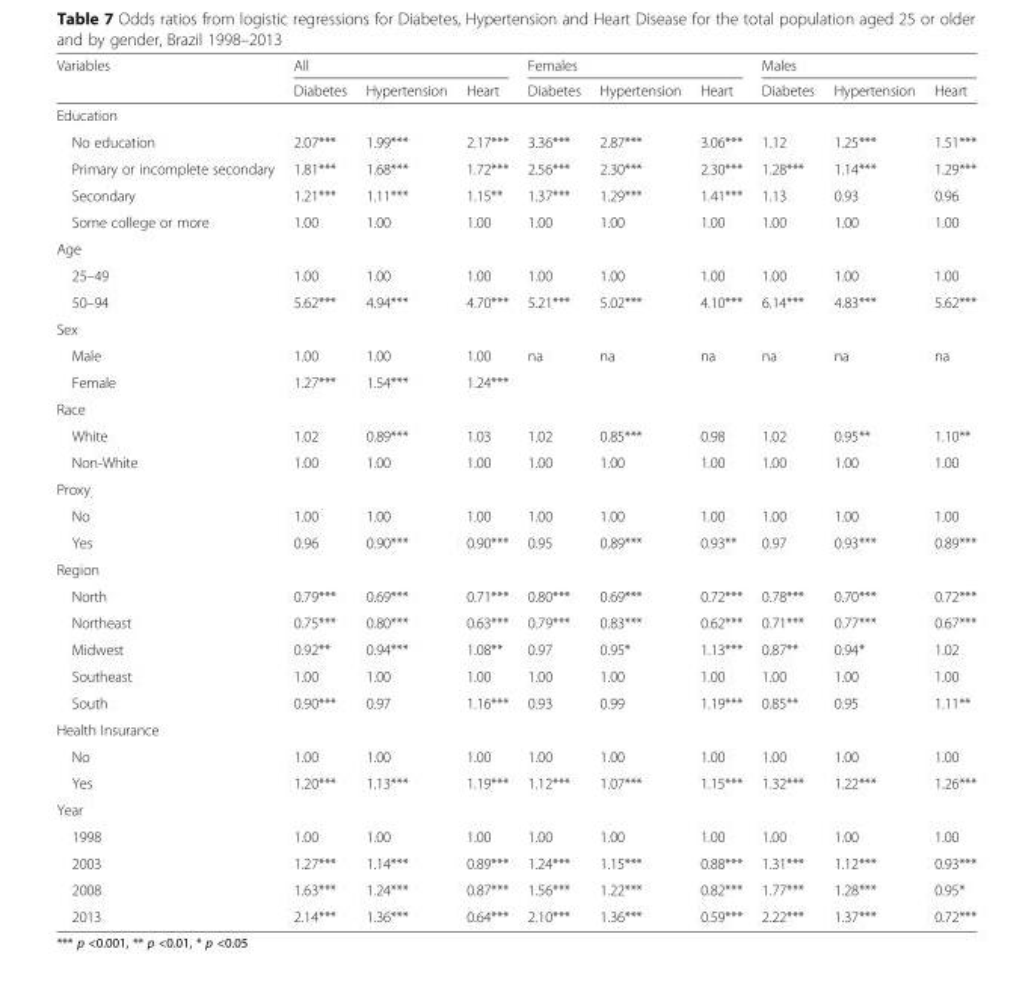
<table><thead><tr><td rowspan="2">Variables</td><td colspan="3">All</td><td colspan="3">Females</td><td colspan="3">Males</td></tr><tr><td>Diabetes</td><td>Hypertension</td><td>Heart</td><td>Diabetes</td><td>Hypertension</td><td>Heart</td><td>Diabetes</td><td>Hypertension</td><td>Heart</td></tr></thead><tbody><tr><td colspan="10">Education</td></tr><tr><td>No education</td><td>2.07***</td><td>1.99***</td><td>2.17***</td><td>3.36***</td><td>2.87***</td><td>3.06***</td><td>1.12</td><td>1.25***</td><td>1.51***</td></tr><tr><td>Primary or incomplete secondary</td><td>1.81***</td><td>1.68***</td><td>1.72***</td><td>2.56***</td><td>2.30***</td><td>2.30***</td><td>1.28***</td><td>1.14***</td><td>1.29***</td></tr><tr><td>Secondary</td><td>1.21***</td><td>1.11***</td><td>1.15**</td><td>1.37***</td><td>1.29***</td><td>1.41***</td><td>1.13</td><td>0.93</td><td>0.96</td></tr><tr><td>Some college or more</td><td>1.00</td><td>1.00</td><td>1.00</td><td>1.00</td><td>1.00</td><td>1.00</td><td>1.00</td><td>1.00</td><td>1.00</td></tr><tr><td colspan="10">Age</td></tr><tr><td>25–49</td><td>1.00</td><td>1.00</td><td>1.00</td><td>1.00</td><td>1.00</td><td>1.00</td><td>1.00</td><td>1.00</td><td>1.00</td></tr><tr><td>50–94</td><td>5.62***</td><td>4.94***</td><td>4.70***</td><td>5.21***</td><td>5.02***</td><td>4.10***</td><td>6.14***</td><td>4.83***</td><td>5.62***</td></tr><tr><td colspan="10">Sex</td></tr><tr><td>Male</td><td>1.00</td><td>1.00</td><td>1.00</td><td>na</td><td>na</td><td>na</td><td>na</td><td>na</td><td>na</td></tr><tr><td>Female</td><td>1.27***</td><td>1.54***</td><td>1.24***</td><td></td><td></td><td></td><td></td><td></td><td></td></tr><tr><td colspan="10">Race</td></tr><tr><td>White</td><td>1.02</td><td>0.89***</td><td>1.03</td><td>1.02</td><td>0.85***</td><td>0.98</td><td>1.02</td><td>0.95**</td><td>1.10**</td></tr><tr><td>Non-White</td><td>1.00</td><td>1.00</td><td>1.00</td><td>1.00</td><td>1.00</td><td>1.00</td><td>1.00</td><td>1.00</td><td>1.00</td></tr><tr><td colspan="10">Proxy</td></tr><tr><td>No</td><td>1.00</td><td>1.00</td><td>1.00</td><td>1.00</td><td>1.00</td><td>1.00</td><td>1.00</td><td>1.00</td><td>1.00</td></tr><tr><td>Yes</td><td>0.96</td><td>0.90***</td><td>0.90***</td><td>0.95</td><td>0.89***</td><td>0.93**</td><td>0.97</td><td>0.93***</td><td>0.89***</td></tr><tr><td colspan="10">Region</td></tr><tr><td>North</td><td>0.79***</td><td>0.69***</td><td>0.71***</td><td>0.80***</td><td>0.69***</td><td>0.72***</td><td>0.78***</td><td>0.70***</td><td>0.72***</td></tr><tr><td>Northeast</td><td>0.75***</td><td>0.80***</td><td>0.63***</td><td>0.79***</td><td>0.83***</td><td>0.62***</td><td>0.71***</td><td>0.77***</td><td>0.67***</td></tr><tr><td>Midwest</td><td>0.92**</td><td>0.94***</td><td>1.08**</td><td>0.97</td><td>0.95*</td><td>1.13***</td><td>0.87**</td><td>0.94*</td><td>1.02</td></tr><tr><td>Southeast</td><td>1.00</td><td>1.00</td><td>1.00</td><td>1.00</td><td>1.00</td><td>1.00</td><td>1.00</td><td>1.00</td><td>1.00</td></tr><tr><td>South</td><td>0.90***</td><td>0.97</td><td>1.16***</td><td>0.93</td><td>0.99</td><td>1.19***</td><td>0.85**</td><td>0.95</td><td>1.11**</td></tr><tr><td colspan="10">Health Insurance</td></tr><tr><td>No</td><td>1.00</td><td>1.00</td><td>1.00</td><td>1.00</td><td>1.00</td><td>1.00</td><td>1.00</td><td>1.00</td><td>1.00</td></tr><tr><td>Yes</td><td>1.20***</td><td>1.13***</td><td>1.19***</td><td>1.12***</td><td>1.07***</td><td>1.15***</td><td>1.32***</td><td>1.22***</td><td>1.26***</td></tr><tr><td colspan="10">Year</td></tr><tr><td>1998</td><td>1.00</td><td>1.00</td><td>1.00</td><td>1.00</td><td>1.00</td><td>1.00</td><td>1.00</td><td>1.00</td><td>1.00</td></tr><tr><td>2003</td><td>1.27***</td><td>1.14***</td><td>0.89***</td><td>1.24***</td><td>1.15***</td><td>0.88***</td><td>1.31***</td><td>1.12***</td><td>0.93***</td></tr><tr><td>2008</td><td>1.63***</td><td>1.24***</td><td>0.87***</td><td>1.56***</td><td>1.22***</td><td>0.82***</td><td>1.77***</td><td>1.28***</td><td>0.95*</td></tr><tr><td>2013</td><td>2.14***</td><td>1.36***</td><td>0.64***</td><td>2.10***</td><td>1.36***</td><td>0.59***</td><td>2.22***</td><td>1.37***</td><td>0.72***</td></tr></tbody></table>